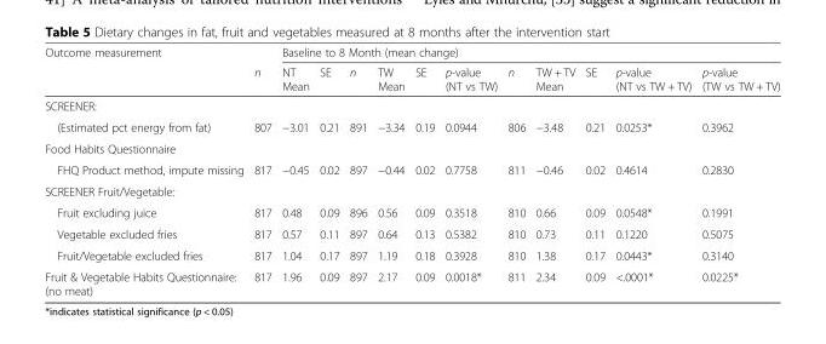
<table><thead><tr><td rowspan="2">Outcome measurement</td><td rowspan="2">n</td><td colspan="11">Baseline to 8 Month (mean change)</td></tr><tr><td>NT Mean</td><td>SE</td><td>n</td><td>TW Mean</td><td>SE</td><td>p-value (NT vs TW)</td><td>n</td><td>TW + TV Mean</td><td>SE</td><td>p-value (NT vs TW + TV)</td><td>p-value (TW vs TW + TV)</td></tr></thead><tbody><tr><td colspan="13">SCREENER:</td></tr><tr><td>(Estimated pct energy from fat)</td><td>807</td><td>−3.01</td><td>0.21</td><td>891</td><td>−3.34</td><td>0.19</td><td>0.0944</td><td>806</td><td>−3.48</td><td>0.21</td><td>0.0253*</td><td>0.3962</td></tr><tr><td colspan="13">Food Habits Questionnaire</td></tr><tr><td>FHQ Product method, impute missing</td><td>817</td><td>−0.45</td><td>0.02</td><td>897</td><td>−0.44</td><td>0.02</td><td>0.7758</td><td>811</td><td>−0.46</td><td>0.02</td><td>0.4614</td><td>0.2830</td></tr><tr><td colspan="13">SCREENER Fruit/Vegetable:</td></tr><tr><td>Fruit excluding juice</td><td>817</td><td>0.48</td><td>0.09</td><td>896</td><td>0.56</td><td>0.09</td><td>0.3518</td><td>810</td><td>0.66</td><td>0.09</td><td>0.0548*</td><td>0.1991</td></tr><tr><td>Vegetable excluded fries</td><td>817</td><td>0.57</td><td>0.11</td><td>897</td><td>0.64</td><td>0.13</td><td>0.5382</td><td>810</td><td>0.73</td><td>0.11</td><td>0.1220</td><td>0.5075</td></tr><tr><td>Fruit/Vegetable excluded fries</td><td>817</td><td>1.04</td><td>0.17</td><td>897</td><td>1.19</td><td>0.18</td><td>0.3928</td><td>810</td><td>1.38</td><td>0.17</td><td>0.0443*</td><td>0.3140</td></tr><tr><td>Fruit &amp; Vegetable Habits Questionnaire: (no meat)</td><td>817</td><td>1.96</td><td>0.09</td><td>897</td><td>2.17</td><td>0.09</td><td>0.0018*</td><td>811</td><td>2.34</td><td>0.09</td><td>&lt;.0001*</td><td>0.0225*</td></tr></tbody></table>